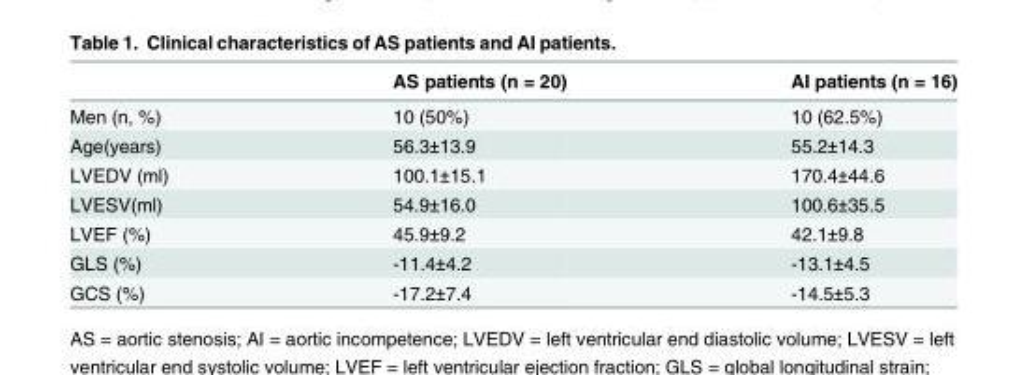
<table><thead><tr><td></td><td>AS patients (n = 20)</td><td>AI patients (n = 16)</td></tr></thead><tbody><tr><td>Men (n, %)</td><td>10 (50%)</td><td>10 (62.5%)</td></tr><tr><td>Age(years)</td><td>56.3±13.9</td><td>55.2±14.3</td></tr><tr><td>LVEDV (ml)</td><td>100.1±15.1</td><td>170.4±44.6</td></tr><tr><td>LVESV(ml)</td><td>54.9±16.0</td><td>100.6±35.5</td></tr><tr><td>LVEF (%)</td><td>45.9±9.2</td><td>42.1±9.8</td></tr><tr><td>GLS (%)</td><td>-11.4±4.2</td><td>-13.1±4.5</td></tr><tr><td>GCS (%)</td><td>-17.2±7.4</td><td>-14.5±5.3</td></tr></tbody></table>